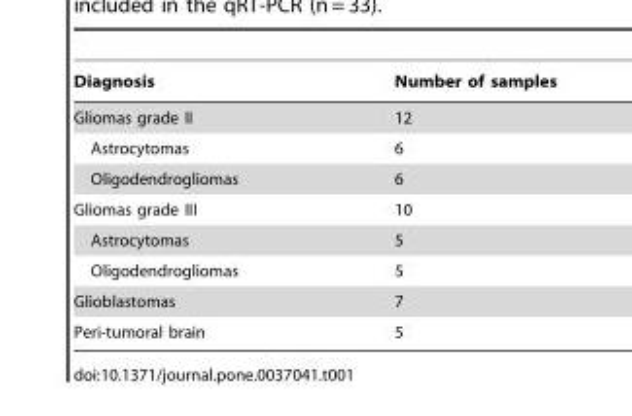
<table><thead><tr><td>Diagnosis</td><td>Number of samples</td></tr></thead><tbody><tr><td>Gliomas grade II</td><td>12</td></tr><tr><td>Astrocytomas</td><td>6</td></tr><tr><td>Oligodendrogliomas</td><td>6</td></tr><tr><td>Gliomas grade III</td><td>10</td></tr><tr><td>Astrocytomas</td><td>5</td></tr><tr><td>Oligodendrogliomas</td><td>5</td></tr><tr><td>Glioblastomas</td><td>7</td></tr><tr><td>Peri-tumoral brain</td><td>5</td></tr></tbody></table>